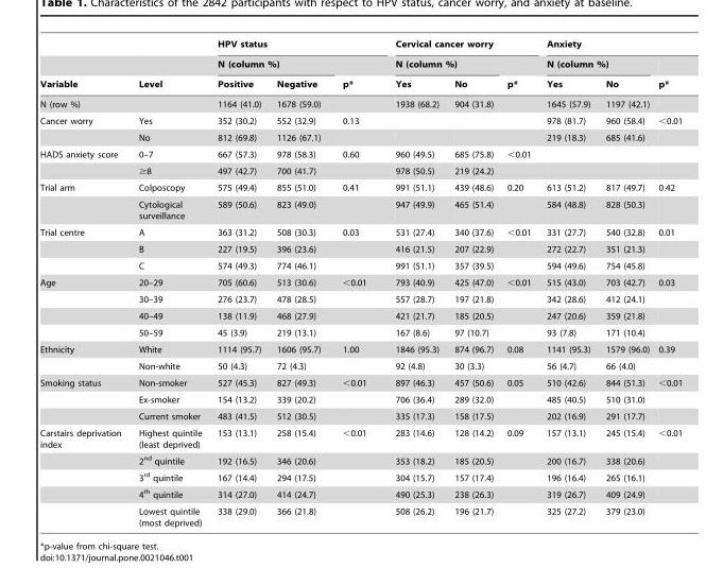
<table><thead><tr><td rowspan="3">Variable</td><td rowspan="3">Level</td><td colspan="3">HPV status</td><td colspan="3">Cervical cancer worry</td><td colspan="3">Anxiety</td></tr><tr><td colspan="2">N (column %)</td><td rowspan="2">p*</td><td colspan="2">N (column %)</td><td rowspan="2">p*</td><td colspan="2">N (column %)</td><td rowspan="2">p*</td></tr><tr><td>Positive</td><td>Negative</td><td>Yes</td><td>No</td><td>Yes</td><td>No</td></tr></thead><tbody><tr><td>N (row %)</td><td></td><td>1164 (41.0)</td><td>1678 (59.0)</td><td></td><td>1938 (68.2)</td><td>904 (31.8)</td><td></td><td>1645 (57.9)</td><td>1197 (42.1)</td><td></td></tr><tr><td rowspan="2">Cancer worry</td><td>Yes</td><td>352 (30.2)</td><td>552 (32.9)</td><td>0.13</td><td></td><td></td><td></td><td>978 (81.7)</td><td>960 (58.4)</td><td>&lt;0.01</td></tr><tr><td>No</td><td>812 (69.8)</td><td>1126 (67.1)</td><td></td><td></td><td></td><td></td><td>219 (18.3)</td><td>685 (41.6)</td><td></td></tr><tr><td rowspan="2">HADS anxiety score</td><td>0–7</td><td>667 (57.3)</td><td>978 (58.3)</td><td>0.60</td><td>960 (49.5)</td><td>685 (75.8)</td><td>&lt;0.01</td><td></td><td></td><td></td></tr><tr><td>≥8</td><td>497 (42.7)</td><td>700 (41.7)</td><td></td><td>978 (50.5)</td><td>219 (24.2)</td><td></td><td></td><td></td><td></td></tr><tr><td rowspan="2">Trial arm</td><td>Colposcopy</td><td>575 (49.4)</td><td>855 (51.0)</td><td>0.41</td><td>991 (51.1)</td><td>439 (48.6)</td><td>0.20</td><td>613 (51.2)</td><td>817 (49.7)</td><td>0.42</td></tr><tr><td>Cytological surveillance</td><td>589 (50.6)</td><td>823 (49.0)</td><td></td><td>947 (49.9)</td><td>465 (51.4)</td><td></td><td>584 (48.8)</td><td>828 (50.3)</td><td></td></tr><tr><td rowspan="3">Trial centre</td><td>A</td><td>363 (31.2)</td><td>508 (30.3)</td><td>0.03</td><td>531 (27.4)</td><td>340 (37.6)</td><td>&lt;0.01</td><td>331 (27.7)</td><td>540 (32.8)</td><td>0.01</td></tr><tr><td>B</td><td>227 (19.5)</td><td>396 (23.6)</td><td></td><td>416 (21.5)</td><td>207 (22.9)</td><td></td><td>272 (22.7)</td><td>351 (21.3)</td><td></td></tr><tr><td>C</td><td>574 (49.3)</td><td>774 (46.1)</td><td></td><td>991 (51.1)</td><td>357 (39.5)</td><td></td><td>594 (49.6)</td><td>754 (45.8)</td><td></td></tr><tr><td rowspan="4">Age</td><td>20–29</td><td>705 (60.6)</td><td>513 (30.6)</td><td>&lt;0.01</td><td>793 (40.9)</td><td>425 (47.0)</td><td>&lt;0.01</td><td>515 (43.0)</td><td>703 (42.7)</td><td>0.03</td></tr><tr><td>30–39</td><td>276 (23.7)</td><td>478 (28.5)</td><td></td><td>557 (28.7)</td><td>197 (21.8)</td><td></td><td>342 (28.6)</td><td>412 (24.1)</td><td></td></tr><tr><td>40–49</td><td>138 (11.9)</td><td>468 (27.9)</td><td></td><td>421 (21.7)</td><td>185 (20.5)</td><td></td><td>247 (20.6)</td><td>359 (21.8)</td><td></td></tr><tr><td>50–59</td><td>45 (3.9)</td><td>219 (13.1)</td><td></td><td>167 (8.6)</td><td>97 (10.7)</td><td></td><td>93 (7.8)</td><td>171 (10.4)</td><td></td></tr><tr><td rowspan="2">Ethnicity</td><td>White</td><td>1114 (95.7)</td><td>1606 (95.7)</td><td>1.00</td><td>1846 (95.3)</td><td>874 (96.7)</td><td>0.08</td><td>1141 (95.3)</td><td>1579 (96.0)</td><td>0.39</td></tr><tr><td>Non-white</td><td>50 (4.3)</td><td>72 (4.3)</td><td></td><td>92 (4.8)</td><td>30 (3.3)</td><td></td><td>56 (4.7)</td><td>66 (4.0)</td><td></td></tr><tr><td rowspan="3">Smoking status</td><td>Non-smoker</td><td>527 (45.3)</td><td>827 (49.3)</td><td>&lt;0.01</td><td>897 (46.3)</td><td>457 (50.6)</td><td>0.05</td><td>510 (42.6)</td><td>844 (51.3)</td><td>&lt;0.01</td></tr><tr><td>Ex-smoker</td><td>154 (13.2)</td><td>339 (20.2)</td><td></td><td>706 (36.4)</td><td>289 (32.0)</td><td></td><td>485 (40.5)</td><td>510 (31.0)</td><td></td></tr><tr><td>Current smoker</td><td>483 (41.5)</td><td>512 (30.5)</td><td></td><td>335 (17.3)</td><td>158 (17.5)</td><td></td><td>202 (16.9)</td><td>291 (17.7)</td><td></td></tr><tr><td rowspan="5">Carstairs deprivation index</td><td>Highest quintile (least deprived)</td><td>153 (13.1)</td><td>258 (15.4)</td><td>&lt;0.01</td><td>283 (14.6)</td><td>128 (14.2)</td><td>0.09</td><td>157 (13.1)</td><td>245 (15.4)</td><td>&lt;0.01</td></tr><tr><td>2<sup>nd</sup> quintile</td><td>192 (16.5)</td><td>346 (20.6)</td><td></td><td>353 (18.2)</td><td>185 (20.5)</td><td></td><td>200 (16.7)</td><td>338 (20.6)</td><td></td></tr><tr><td>3<sup>rd</sup> quintile</td><td>167 (14.4)</td><td>294 (17.5)</td><td></td><td>304 (15.7)</td><td>157 (17.4)</td><td></td><td>196 (16.4)</td><td>265 (16.1)</td><td></td></tr><tr><td>4<sup>th</sup> quintile</td><td>314 (27.0)</td><td>414 (24.7)</td><td></td><td>490 (25.3)</td><td>238 (26.3)</td><td></td><td>319 (26.7)</td><td>409 (24.9)</td><td></td></tr><tr><td>Lowest quintile (most deprived)</td><td>338 (29.0)</td><td>366 (21.8)</td><td></td><td>508 (26.2)</td><td>196 (21.7)</td><td></td><td>325 (27.2)</td><td>379 (23.0)</td><td></td></tr></tbody></table>